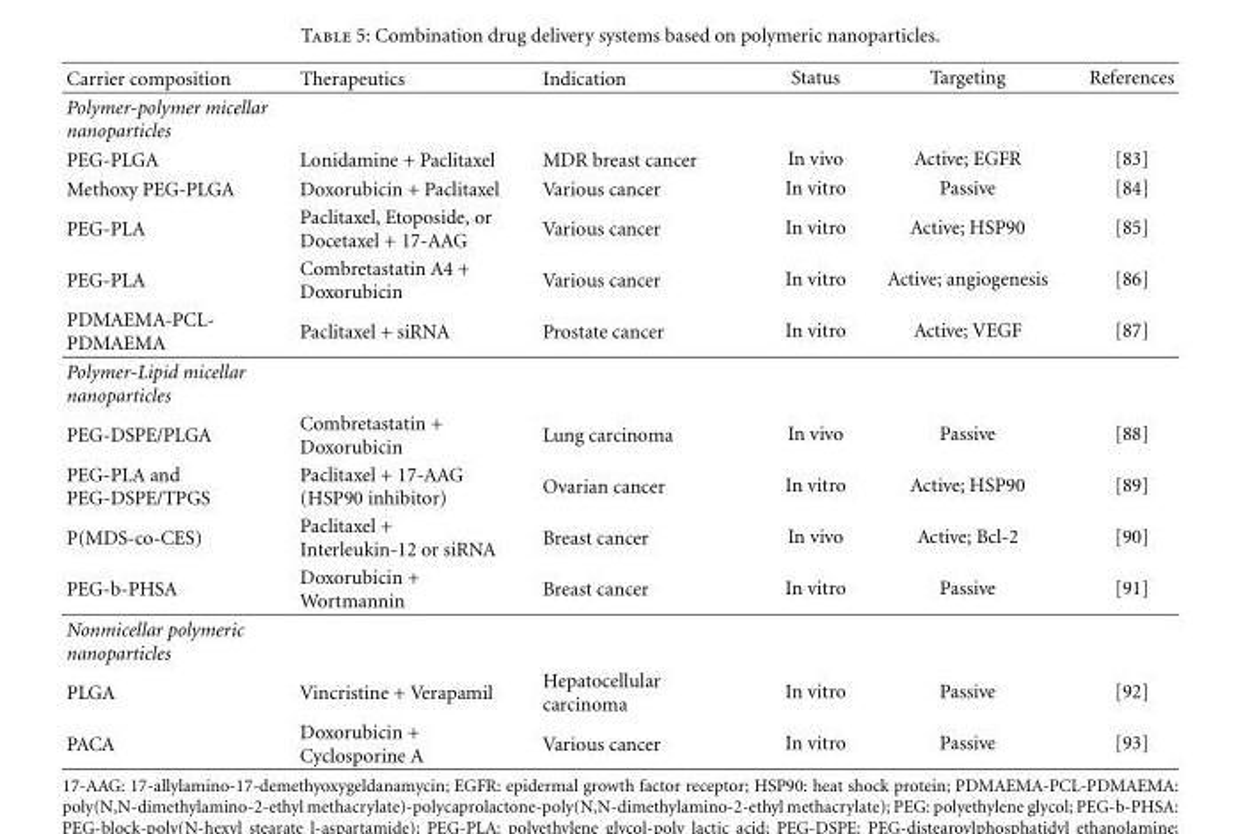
<table><thead><tr><td>Carrier composition</td><td>Therapeutics</td><td>Indication</td><td>Status</td><td>Targeting</td><td>References</td></tr></thead><tbody><tr><td colspan="6">Polymer-polymer micellar nanoparticles</td></tr><tr><td>PEG-PLGA</td><td>Lonidamine + Paclitaxel</td><td>MDR breast cancer</td><td>In vivo</td><td>Active; EGFR</td><td>[83]</td></tr><tr><td>Methoxy PEG-PLGA</td><td>Doxorubicin + Paclitaxel</td><td>Various cancer</td><td>In vitro</td><td>Passive</td><td>[84]</td></tr><tr><td>PEG-PLA</td><td>Paclitaxel, Etoposide, or Docetaxel + 17-AAG</td><td>Various cancer</td><td>In vitro</td><td>Active; HSP90</td><td>[85]</td></tr><tr><td>PEG-PLA</td><td>Combretastatin A4 + Doxorubicin</td><td>Various cancer</td><td>In vitro</td><td>Active; angiogenesis</td><td>[86]</td></tr><tr><td>PDMAEMA-PCL- PDMAEMA</td><td>Paclitaxel + siRNA</td><td>Prostate cancer</td><td>In vitro</td><td>Active; VEGF</td><td>[87]</td></tr><tr><td colspan="6">Polymer-Lipid micellar nanoparticles</td></tr><tr><td>PEG-DSPE/PLGA</td><td>Combretastatin + Doxorubicin</td><td>Lung carcinoma</td><td>In vivo</td><td>Passive</td><td>[88]</td></tr><tr><td>PEG-PLA and PEG-DSPE/TPGS</td><td>Paclitaxel + 17-AAG (HSP90 inhibitor)</td><td>Ovarian cancer</td><td>In vitro</td><td>Active; HSP90</td><td>[89]</td></tr><tr><td>P(MDS-co-CES)</td><td>Paclitaxel + Interleukin-12 or siRNA</td><td>Breast cancer</td><td>In vivo</td><td>Active; Bcl-2</td><td>[90]</td></tr><tr><td>PEG-b-PHSA</td><td>Doxorubicin + Wortmannin</td><td>Breast cancer</td><td>In vitro</td><td>Passive</td><td>[91]</td></tr><tr><td colspan="6">Nonmicellar polymeric nanoparticles</td></tr><tr><td>PLGA</td><td>Vincristine + Verapamil</td><td>Hepatocellular carcinoma</td><td>In vitro</td><td>Passive</td><td>[92]</td></tr><tr><td>PACA</td><td>Doxorubicin + Cyclosporine A</td><td>Various cancer</td><td>In vitro</td><td>Passive</td><td>[93]</td></tr></tbody></table>